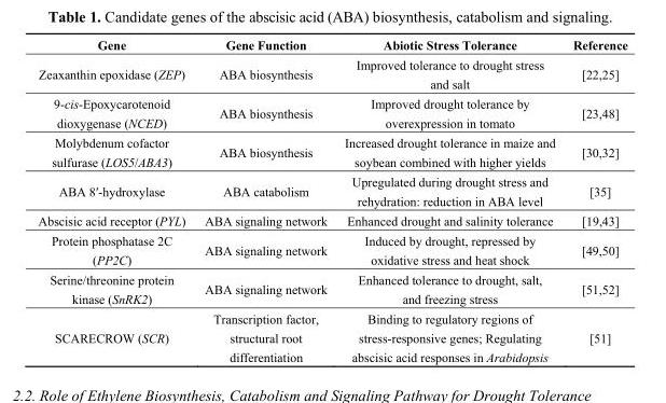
<table><thead><tr><td>Gene</td><td>Gene Function</td><td>Abiotic Stress Tolerance</td><td>Reference</td></tr></thead><tbody><tr><td>Zeaxanthin epoxidase (ZEP)</td><td>ABA biosynthesis</td><td>Improved tolerance to drought stress and salt</td><td>[22,25]</td></tr><tr><td>9-cis-Epoxycarotenoid dioxygenase (NCED)</td><td>ABA biosynthesis</td><td>Improved drought tolerance by overexpression in tomato</td><td>[23,48]</td></tr><tr><td>Molybdenum cofactor sulfurase (LOS5/ABA3)</td><td>ABA biosynthesis</td><td>Increased drought tolerance in maize and soybean combined with higher yields</td><td>[30,32]</td></tr><tr><td>ABA 8′-hydroxylase</td><td>ABA catabolism</td><td>Upregulated during drought stress and rehydration: reduction in ABA level</td><td>[35]</td></tr><tr><td>Abscisic acid receptor (PYL)</td><td>ABA signaling network</td><td>Enhanced drought and salinity tolerance</td><td>[19,43]</td></tr><tr><td>Protein phosphatase 2C (PP2C)</td><td>ABA signaling network</td><td>Induced by drought, repressed by oxidative stress and heat shock</td><td>[49,50]</td></tr><tr><td>Serine/threonine protein kinase (SnRK2)</td><td>ABA signaling network</td><td>Enhanced tolerance to drought, salt, and freezing stress</td><td>[51,52]</td></tr><tr><td>SCARECROW (SCR)</td><td>Transcription factor, structural root differentiation</td><td>Binding to regulatory regions of stress-responsive genes; Regulating abscisic acid responses in Arabidopsis</td><td>[51]</td></tr></tbody></table>